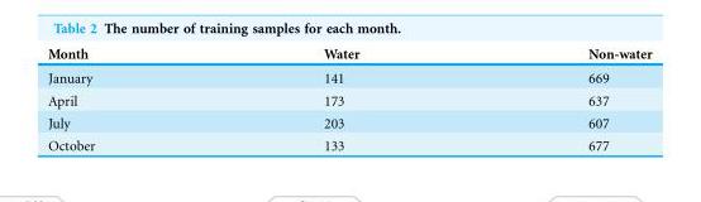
<table><thead><tr><td>Month</td><td>Water</td><td>Non-water</td></tr></thead><tbody><tr><td>January</td><td>141</td><td>669</td></tr><tr><td>April</td><td>173</td><td>637</td></tr><tr><td>July</td><td>203</td><td>607</td></tr><tr><td>October</td><td>133</td><td>677</td></tr></tbody></table>